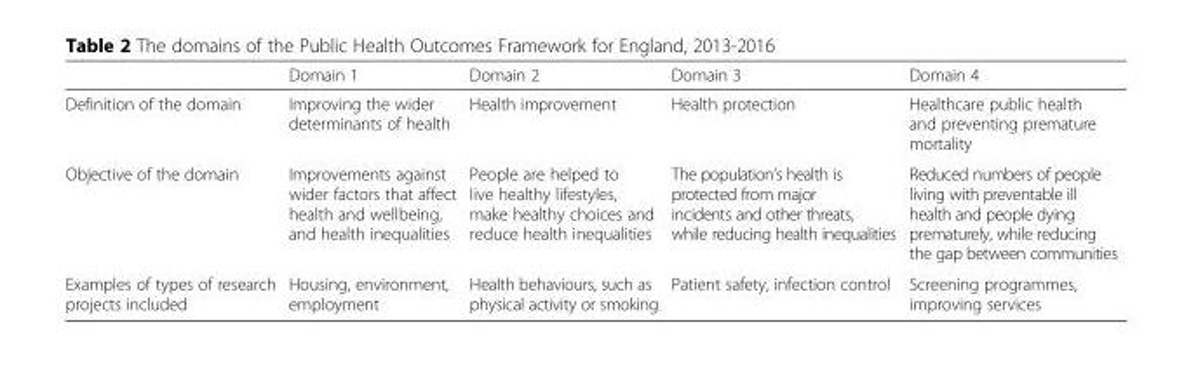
<table><thead><tr><td></td><td>Domain 1</td><td>Domain 2</td><td>Domain 3</td><td>Domain 4</td></tr></thead><tbody><tr><td>Definition of the domain</td><td>Improving the wider determinants of health</td><td>Health improvement</td><td>Health protection</td><td>Healthcare public health and preventing premature mortality</td></tr><tr><td>Objective of the domain</td><td>Improvements against wider factors that affect health and wellbeing, and health inequalities</td><td>People are helped to live healthy lifestyles, make healthy choices and reduce health inequalities</td><td>The population’s health is protected from major incidents and other threats, while reducing health inequalities</td><td>Reduced numbers of people living with preventable ill health and people dying prematurely, while reducing the gap between communities</td></tr><tr><td>Examples of types of research projects included</td><td>Housing, environment, employment</td><td>Health behaviours, such as physical activity or smoking</td><td>Patient safety, infection control</td><td>Screening programmes, improving services</td></tr></tbody></table>